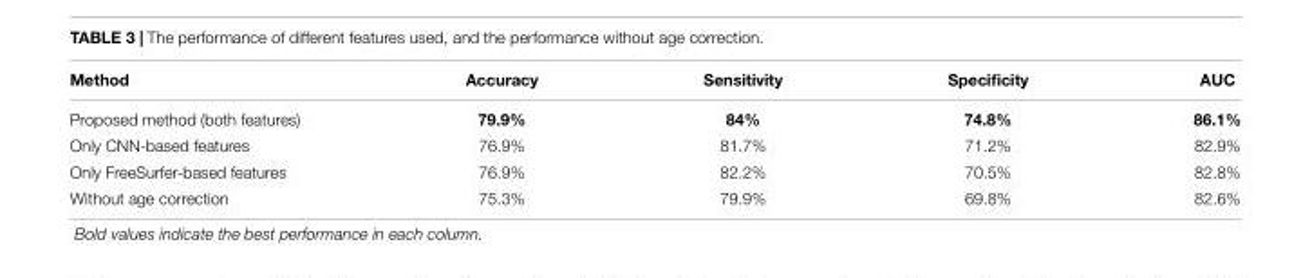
<table><thead><tr><td>Method</td><td>Accuracy</td><td>Sensitivity</td><td>Specificity</td><td>AUC</td></tr></thead><tbody><tr><td>Proposed method (both features)</td><td>79.9%</td><td>84%</td><td>74.8%</td><td>86.1%</td></tr><tr><td>Only CNN-based features</td><td>76.9%</td><td>81.7%</td><td>71.2%</td><td>82.9%</td></tr><tr><td>Only FreeSurfer-based features</td><td>76.9%</td><td>82.2%</td><td>70.5%</td><td>82.8%</td></tr><tr><td>Without age correction</td><td>75.3%</td><td>79.9%</td><td>69.8%</td><td>82.6%</td></tr></tbody></table>